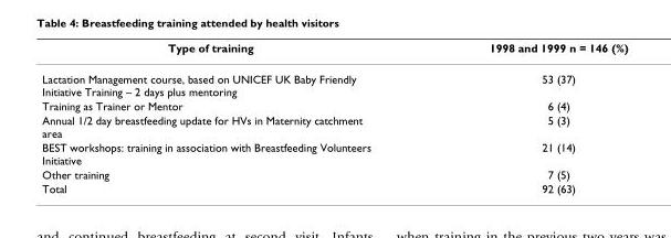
<table><thead><tr><td>Type of training</td><td>1998 and 1999 n = 146 (%)</td></tr></thead><tbody><tr><td>Lactation Management course, based on UNICEF UK Baby Friendly Initiative Training – 2 days plus mentoring</td><td>53 (37)</td></tr><tr><td>Training as Trainer or Mentor</td><td>6 (4)</td></tr><tr><td>Annual 1/2 day breastfeeding update for HVs in Maternity catchment area</td><td>5 (3)</td></tr><tr><td>BEST workshops: training in association with Breastfeeding Volunteers Initiative</td><td>21 (14)</td></tr><tr><td>Other training</td><td>7 (5)</td></tr><tr><td>Total</td><td>92 (63)</td></tr></tbody></table>